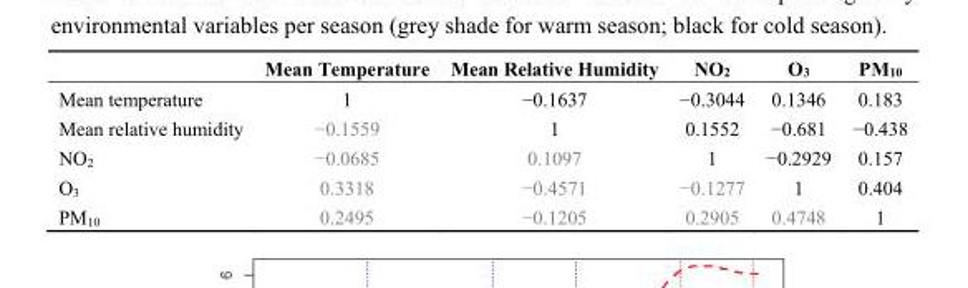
<table><thead><tr><td></td><td>Mean Temperature</td><td>Mean Relative Humidity</td><td>NO<sub>2</sub></td><td>O<sub>3</sub></td><td>PM<sub>10</sub></td></tr></thead><tbody><tr><td>Mean temperature</td><td>1</td><td>−0.1637</td><td>−0.3044</td><td>0.1346</td><td>0.183</td></tr><tr><td>Mean relative humidity</td><td>−0.1559</td><td>1</td><td>0.1552</td><td>−0.681</td><td>−0.438</td></tr><tr><td>NO<sub>2</sub></td><td>−0.0685</td><td>0.1097</td><td>1</td><td>−0.2929</td><td>0.157</td></tr><tr><td>O<sub>3</sub></td><td>0.3318</td><td>−0.4571</td><td>−0.1277</td><td>1</td><td>0.404</td></tr><tr><td>PM<sub>10</sub></td><td>0.2495</td><td>−0.1205</td><td>0.2905</td><td>0.4748</td><td>1</td></tr></tbody></table>